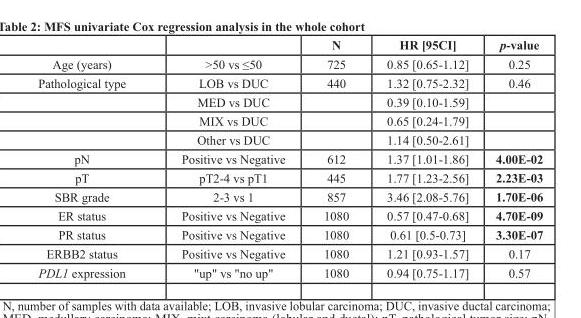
<table><thead><tr><td></td><td></td><td>N</td><td>HR [95CI]</td><td>p-value</td></tr></thead><tbody><tr><td>Age (years)</td><td>&gt;50 vs ≤50</td><td>725</td><td>0.85 [0.65-1.12]</td><td>0.25</td></tr><tr><td rowspan="4">Pathological type</td><td>LOB vs DUC</td><td>440</td><td>1.32 [0.75-2.32]</td><td>0.46</td></tr><tr><td>MED vs DUC</td><td></td><td>0.39 [0.10-1.59]</td><td></td></tr><tr><td>MIX vs DUC</td><td></td><td>0.65 [0.24-1.79]</td><td></td></tr><tr><td>Other vs DUC</td><td></td><td>1.14 [0.50-2.61]</td><td></td></tr><tr><td>pN</td><td>Positive vs Negative</td><td>612</td><td>1.37 [1.01-1.86]</td><td>4.00E-02</td></tr><tr><td>pT</td><td>pT2-4 vs pT1</td><td>445</td><td>1.77 [1.23-2.56]</td><td>2.23E-03</td></tr><tr><td>SBR grade</td><td>2-3 vs 1</td><td>857</td><td>3.46 [2.08-5.76]</td><td>1.70E-06</td></tr><tr><td>ER status</td><td>Positive vs Negative</td><td>1080</td><td>0.57 [0.47-0.68]</td><td>4.70E-09</td></tr><tr><td>PR status</td><td>Positive vs Negative</td><td>1080</td><td>0.61 [0.5-0.73]</td><td>3.30E-07</td></tr><tr><td>ERBB2 status</td><td>Positive vs Negative</td><td>1080</td><td>1.21 [0.93-1.57]</td><td>0.17</td></tr><tr><td>PDL1 expression</td><td>&quot;up&quot; vs &quot;no up&quot;</td><td>1080</td><td>0.94 [0.75-1.17]</td><td>0.57</td></tr></tbody></table>